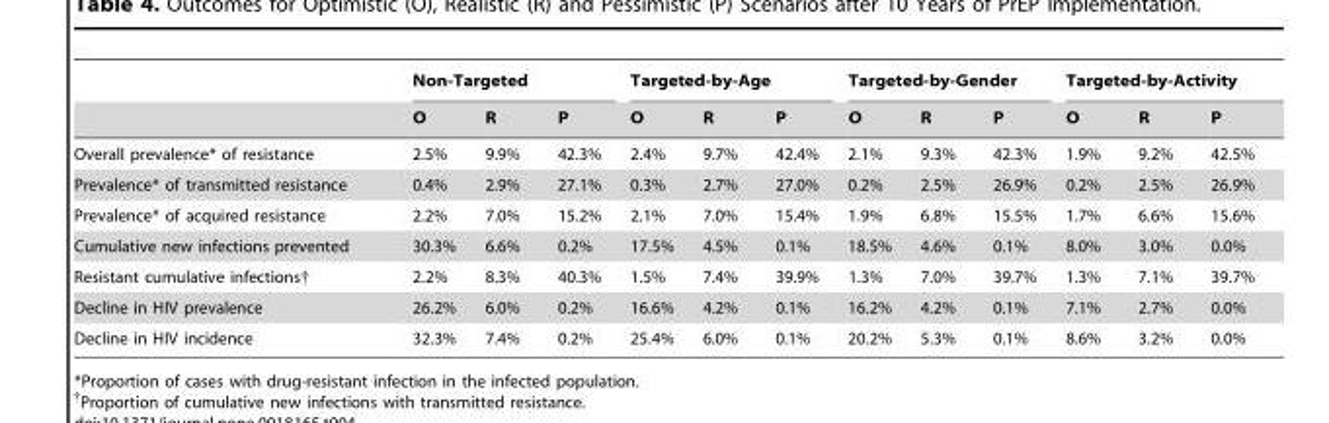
<table><thead><tr><td rowspan="2"></td><td colspan="3">Non-Targeted</td><td colspan="3">Targeted-by-Age</td><td colspan="3">Targeted-by-Gender</td><td colspan="3">Targeted-by-Activity</td></tr><tr><td>O</td><td>R</td><td>P</td><td>O</td><td>R</td><td>P</td><td>O</td><td>R</td><td>P</td><td>O</td><td>R</td><td>P</td></tr></thead><tbody><tr><td>Overall prevalence* of resistance</td><td>2.5%</td><td>9.9%</td><td>42.3%</td><td>2.4%</td><td>9.7%</td><td>42.4%</td><td>2.1%</td><td>9.3%</td><td>42.3%</td><td>1.9%</td><td>9.2%</td><td>42.5%</td></tr><tr><td>Prevalence* of transmitted resistance</td><td>0.4%</td><td>2.9%</td><td>27.1%</td><td>0.3%</td><td>2.7%</td><td>27.0%</td><td>0.2%</td><td>2.5%</td><td>26.9%</td><td>0.2%</td><td>2.5%</td><td>26.9%</td></tr><tr><td>Prevalence* of acquired resistance</td><td>2.2%</td><td>7.0%</td><td>15.2%</td><td>2.1%</td><td>7.0%</td><td>15.4%</td><td>1.9%</td><td>6.8%</td><td>15.5%</td><td>1.7%</td><td>6.6%</td><td>15.6%</td></tr><tr><td>Cumulative new infections prevented</td><td>30.3%</td><td>6.6%</td><td>0.2%</td><td>17.5%</td><td>4.5%</td><td>0.1%</td><td>18.5%</td><td>4.6%</td><td>0.1%</td><td>8.0%</td><td>3.0%</td><td>0.0%</td></tr><tr><td>Resistant cumulative infections†</td><td>2.2%</td><td>8.3%</td><td>40.3%</td><td>1.5%</td><td>7.4%</td><td>39.9%</td><td>1.3%</td><td>7.0%</td><td>39.7%</td><td>1.3%</td><td>7.1%</td><td>39.7%</td></tr><tr><td>Decline in HIV prevalence</td><td>26.2%</td><td>6.0%</td><td>0.2%</td><td>16.6%</td><td>4.2%</td><td>0.1%</td><td>16.2%</td><td>4.2%</td><td>0.1%</td><td>7.1%</td><td>2.7%</td><td>0.0%</td></tr><tr><td>Decline in HIV incidence</td><td>32.3%</td><td>7.4%</td><td>0.2%</td><td>25.4%</td><td>6.0%</td><td>0.1%</td><td>20.2%</td><td>5.3%</td><td>0.1%</td><td>8.6%</td><td>3.2%</td><td>0.0%</td></tr></tbody></table>